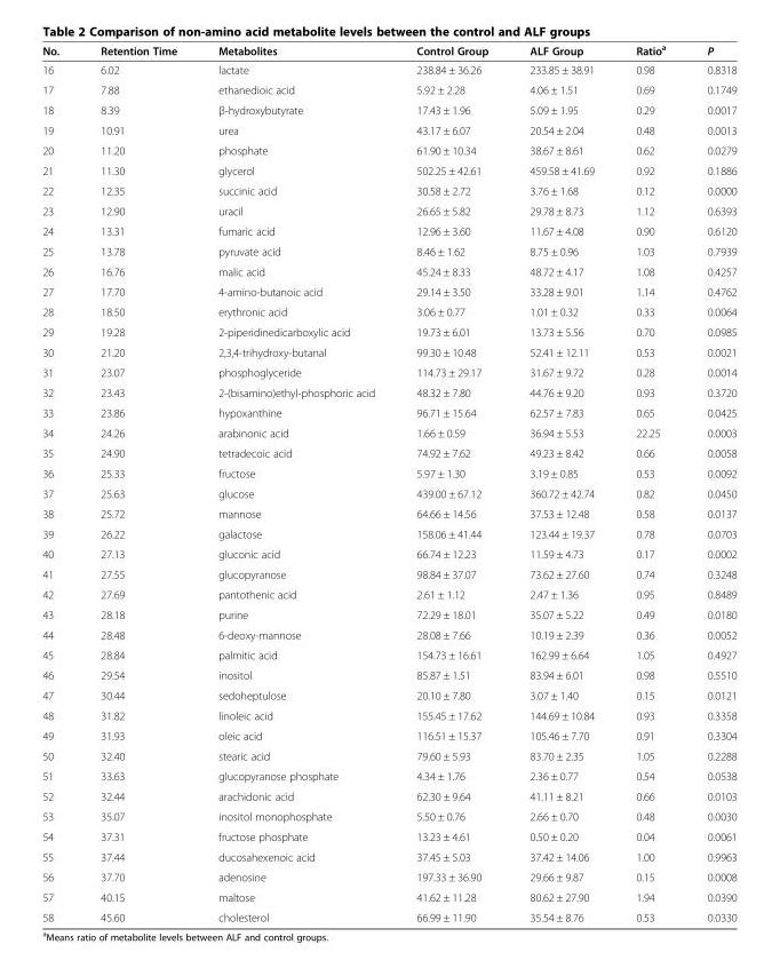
<table><thead><tr><td>No.</td><td>Retention Time</td><td>Metabolites</td><td>Control Group</td><td>ALF Group</td><td>Ratio<sup>a</sup></td><td>P</td></tr></thead><tbody><tr><td>16</td><td>6.02</td><td>lactate</td><td>238.84 ± 36.26</td><td>233.85 ± 38.91</td><td>0.98</td><td>0.8318</td></tr><tr><td>17</td><td>7.88</td><td>ethanedioic acid</td><td>5.92 ± 2.28</td><td>4.06 ± 1.51</td><td>0.69</td><td>0.1749</td></tr><tr><td>18</td><td>8.39</td><td>β-hydroxybutyrate</td><td>17.43 ± 1.96</td><td>5.09 ± 1.95</td><td>0.29</td><td>0.0017</td></tr><tr><td>19</td><td>10.91</td><td>urea</td><td>43.17 ± 6.07</td><td>20.54 ± 2.04</td><td>0.48</td><td>0.0013</td></tr><tr><td>20</td><td>11.20</td><td>phosphate</td><td>61.90 ± 10.34</td><td>38.67 ± 8.61</td><td>0.62</td><td>0.0279</td></tr><tr><td>21</td><td>11.30</td><td>glycerol</td><td>502.25 ± 42.61</td><td>459.58 ± 41.69</td><td>0.92</td><td>0.1886</td></tr><tr><td>22</td><td>12.35</td><td>succinic acid</td><td>30.58 ± 2.72</td><td>3.76 ± 1.68</td><td>0.12</td><td>0.0000</td></tr><tr><td>23</td><td>12.90</td><td>uracil</td><td>26.65 ± 5.82</td><td>29.78 ± 8.73</td><td>1.12</td><td>0.6393</td></tr><tr><td>24</td><td>13.31</td><td>fumaric acid</td><td>12.96 ± 3.60</td><td>11.67 ± 4.08</td><td>0.90</td><td>0.6120</td></tr><tr><td>25</td><td>13.78</td><td>pyruvate acid</td><td>8.46 ± 1.62</td><td>8.75 ± 0.96</td><td>1.03</td><td>0.7939</td></tr><tr><td>26</td><td>16.76</td><td>malic acid</td><td>45.24 ± 8.33</td><td>48.72 ± 4.17</td><td>1.08</td><td>0.4257</td></tr><tr><td>27</td><td>17.70</td><td>4-amino-butanoic acid</td><td>29.14 ± 3.50</td><td>33.28 ± 9.01</td><td>1.14</td><td>0.4762</td></tr><tr><td>28</td><td>18.50</td><td>erythronic acid</td><td>3.06 ± 0.77</td><td>1.01 ± 0.32</td><td>0.33</td><td>0.0064</td></tr><tr><td>29</td><td>19.28</td><td>2-piperidinedicarboxylic acid</td><td>19.73 ± 6.01</td><td>13.73 ± 5.56</td><td>0.70</td><td>0.0985</td></tr><tr><td>30</td><td>21.20</td><td>2,3,4-trihydroxy-butanal</td><td>99.30 ± 10.48</td><td>52.41 ± 12.11</td><td>0.53</td><td>0.0021</td></tr><tr><td>31</td><td>23.07</td><td>phosphoglyceride</td><td>114.73 ± 29.17</td><td>31.67 ± 9.72</td><td>0.28</td><td>0.0014</td></tr><tr><td>32</td><td>23.43</td><td>2-(bisamino)ethyl-phosphoric acid</td><td>48.32 ± 7.80</td><td>44.76 ± 9.20</td><td>0.93</td><td>0.3720</td></tr><tr><td>33</td><td>23.86</td><td>hypoxanthine</td><td>96.71 ± 15.64</td><td>62.57 ± 7.83</td><td>0.65</td><td>0.0425</td></tr><tr><td>34</td><td>24.26</td><td>arabinonic acid</td><td>1.66 ± 0.59</td><td>36.94 ± 5.53</td><td>22.25</td><td>0.0003</td></tr><tr><td>35</td><td>24.90</td><td>tetradecoic acid</td><td>74.92 ± 7.62</td><td>49.23 ± 8.42</td><td>0.66</td><td>0.0058</td></tr><tr><td>36</td><td>25.33</td><td>fructose</td><td>5.97 ± 1.30</td><td>3.19 ± 0.85</td><td>0.53</td><td>0.0092</td></tr><tr><td>37</td><td>25.63</td><td>glucose</td><td>439.00 ± 67.12</td><td>360.72 ± 42.74</td><td>0.82</td><td>0.0450</td></tr><tr><td>38</td><td>25.72</td><td>mannose</td><td>64.66 ± 14.56</td><td>37.53 ± 12.48</td><td>0.58</td><td>0.0137</td></tr><tr><td>39</td><td>26.22</td><td>galactose</td><td>158.06 ± 41.44</td><td>123.44 ± 19.37</td><td>0.78</td><td>0.0703</td></tr><tr><td>40</td><td>27.13</td><td>gluconic acid</td><td>66.74 ± 12.23</td><td>11.59 ± 4.73</td><td>0.17</td><td>0.0002</td></tr><tr><td>41</td><td>27.55</td><td>glucopyranose</td><td>98.84 ± 37.07</td><td>73.62 ± 27.60</td><td>0.74</td><td>0.3248</td></tr><tr><td>42</td><td>27.69</td><td>pantothenic acid</td><td>2.61 ± 1.12</td><td>2.47 ± 1.36</td><td>0.95</td><td>0.8489</td></tr><tr><td>43</td><td>28.18</td><td>purine</td><td>72.29 ± 18.01</td><td>35.07 ± 5.22</td><td>0.49</td><td>0.0180</td></tr><tr><td>44</td><td>28.48</td><td>6-deoxy-mannose</td><td>28.08 ± 7.66</td><td>10.19 ± 2.39</td><td>0.36</td><td>0.0052</td></tr><tr><td>45</td><td>28.84</td><td>palmitic acid</td><td>154.73 ± 16.61</td><td>162.99 ± 6.64</td><td>1.05</td><td>0.4927</td></tr><tr><td>46</td><td>29.54</td><td>inositol</td><td>85.87 ± 1.51</td><td>83.94 ± 6.01</td><td>0.98</td><td>0.5510</td></tr><tr><td>47</td><td>30.44</td><td>sedoheptulose</td><td>20.10 ± 7.80</td><td>3.07 ± 1.40</td><td>0.15</td><td>0.0121</td></tr><tr><td>48</td><td>31.82</td><td>linoleic acid</td><td>155.45 ± 17.62</td><td>144.69 ± 10.84</td><td>0.93</td><td>0.3358</td></tr><tr><td>49</td><td>31.93</td><td>oleic acid</td><td>116.51 ± 15.37</td><td>105.46 ± 7.70</td><td>0.91</td><td>0.3304</td></tr><tr><td>50</td><td>32.40</td><td>stearic acid</td><td>79.60 ± 5.93</td><td>83.70 ± 2.35</td><td>1.05</td><td>0.2288</td></tr><tr><td>51</td><td>33.63</td><td>glucopyranose phosphate</td><td>4.34 ± 1.76</td><td>2.36 ± 0.77</td><td>0.54</td><td>0.0538</td></tr><tr><td>52</td><td>32.44</td><td>arachidonic acid</td><td>62.30 ± 9.64</td><td>41.11 ± 8.21</td><td>0.66</td><td>0.0103</td></tr><tr><td>53</td><td>35.07</td><td>inositol monophosphate</td><td>5.50 ± 0.76</td><td>2.66 ± 0.70</td><td>0.48</td><td>0.0030</td></tr><tr><td>54</td><td>37.31</td><td>fructose phosphate</td><td>13.23 ± 4.61</td><td>0.50 ± 0.20</td><td>0.04</td><td>0.0061</td></tr><tr><td>55</td><td>37.44</td><td>ducosahexenoic acid</td><td>37.45 ± 5.03</td><td>37.42 ± 14.06</td><td>1.00</td><td>0.9963</td></tr><tr><td>56</td><td>37.70</td><td>adenosine</td><td>197.33 ± 36.90</td><td>29.66 ± 9.87</td><td>0.15</td><td>0.0008</td></tr><tr><td>57</td><td>40.15</td><td>maltose</td><td>41.62 ± 11.28</td><td>80.62 ± 27.90</td><td>1.94</td><td>0.0390</td></tr><tr><td>58</td><td>45.60</td><td>cholesterol</td><td>66.99 ± 11.90</td><td>35.54 ± 8.76</td><td>0.53</td><td>0.0330</td></tr></tbody></table>